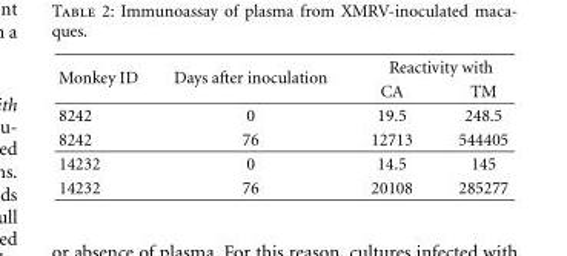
<table><thead><tr><td rowspan="2">Monkey ID</td><td rowspan="2">Days after inoculation</td><td colspan="2">Reactivity with</td></tr><tr><td>CA</td><td>TM</td></tr></thead><tbody><tr><td>8242</td><td>0</td><td>19.5</td><td>248.5</td></tr><tr><td>8242</td><td>76</td><td>12713</td><td>544405</td></tr><tr><td>14232</td><td>0</td><td>14.5</td><td>145</td></tr><tr><td>14232</td><td>76</td><td>20108</td><td>285277</td></tr></tbody></table>